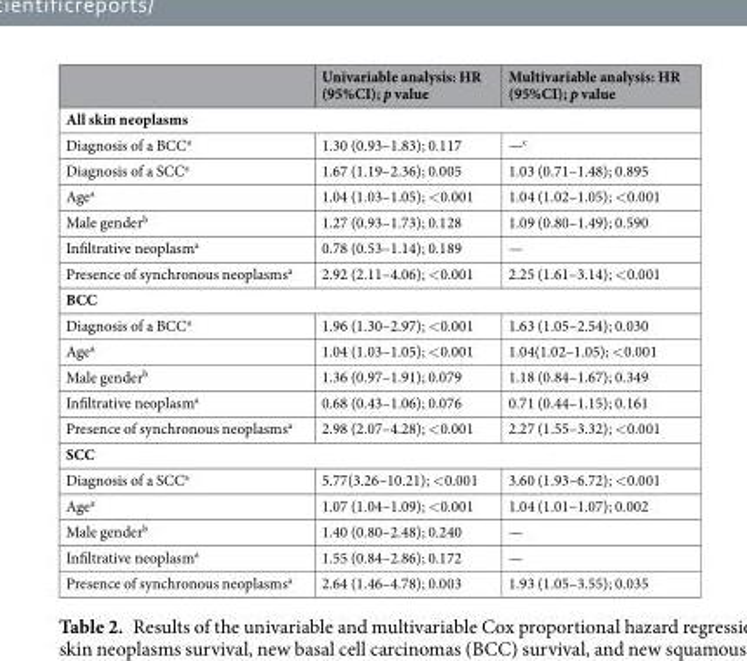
<table><thead><tr><td></td><td>Univariable analysis: HR (95%CI); p value</td><td>Multivariable analysis: HR (95%CI); p value</td></tr></thead><tbody><tr><td colspan="3">All skin neoplasms</td></tr><tr><td>Diagnosis of a BCC<sup>a</sup></td><td>1.30 (0.93–1.83); 0.117</td><td>—<sup>c</sup></td></tr><tr><td>Diagnosis of a SCC<sup>a</sup></td><td>1.67 (1.19–2.36); 0.005</td><td>1.03 (0.71–1.48); 0.895</td></tr><tr><td>Age<sup>a</sup></td><td>1.04 (1.03–1.05); &lt;0.001</td><td>1.04 (1.02–1.05); &lt;0.001</td></tr><tr><td>Male gender<sup>b</sup></td><td>1.27 (0.93–1.73); 0.128</td><td>1.09 (0.80–1.49); 0.590</td></tr><tr><td>Infiltrative neoplasm<sup>a</sup></td><td>0.78 (0.53–1.14); 0.189</td><td>—</td></tr><tr><td>Presence of synchronous neoplasms<sup>a</sup></td><td>2.92 (2.11–4.06); &lt;0.001</td><td>2.25 (1.61–3.14); &lt;0.001</td></tr><tr><td colspan="3">BCC</td></tr><tr><td>Diagnosis of a BCC<sup>a</sup></td><td>1.96 (1.30–2.97); &lt;0.001</td><td>1.63 (1.05–2.54); 0.030</td></tr><tr><td>Age<sup>a</sup></td><td>1.04 (1.03–1.05); &lt;0.001</td><td>1.04(1.02–1.05); &lt;0.001</td></tr><tr><td>Male gender<sup>b</sup></td><td>1.36 (0.97–1.91); 0.079</td><td>1.18 (0.84–1.67); 0.349</td></tr><tr><td>Infiltrative neoplasm<sup>a</sup></td><td>0.68 (0.43–1.06); 0.076</td><td>0.71 (0.44–1.15); 0.161</td></tr><tr><td>Presence of synchronous neoplasms<sup>a</sup></td><td>2.98 (2.07–4.28); &lt;0.001</td><td>2.27 (1.55–3.32); &lt;0.001</td></tr><tr><td colspan="3">SCC</td></tr><tr><td>Diagnosis of a SCC<sup>a</sup></td><td>5.77(3.26–10.21); &lt;0.001</td><td>3.60 (1.93–6.72); &lt;0.001</td></tr><tr><td>Age<sup>a</sup></td><td>1.07 (1.04–1.09); &lt;0.001</td><td>1.04 (1.01–1.07); 0.002</td></tr><tr><td>Male gender<sup>b</sup></td><td>1.40 (0.80–2.48); 0.240</td><td>—</td></tr><tr><td>Infiltrative neoplasm<sup>a</sup></td><td>1.55 (0.84–2.86); 0.172</td><td>—</td></tr><tr><td>Presence of synchronous neoplasms<sup>a</sup></td><td>2.64 (1.46–4.78); 0.003</td><td>1.93 (1.05–3.55); 0.035</td></tr></tbody></table>